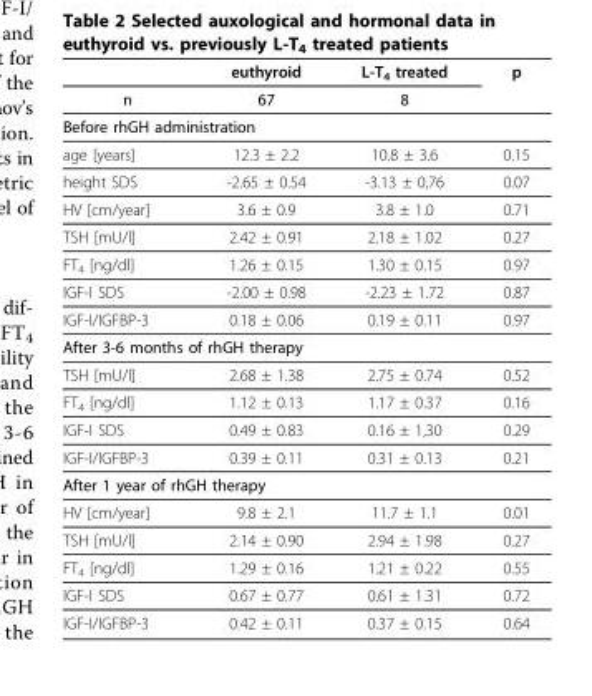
<table><thead><tr><td rowspan="2">n</td><td rowspan="2">euthyroid 67</td><td rowspan="2">L-T4 treated 8</td><td rowspan="2">p</td></tr><tr></tr></thead><tbody><tr><td colspan="4">Before rhGH administration</td></tr><tr><td>age [years]</td><td>12.3 ± 2.2</td><td>10.8 ± 3.6</td><td>0.15</td></tr><tr><td>height SDS</td><td>-2.65 ± 0.54</td><td>-3.13 ± 0,76</td><td>0.07</td></tr><tr><td>HV [cm/year]</td><td>3.6 ± 0.9</td><td>3.8 ± 1.0</td><td>0.71</td></tr><tr><td>TSH [mU/l]</td><td>2.42 ± 0.91</td><td>2.18 ± 1.02</td><td>0.27</td></tr><tr><td>FT<sub>4</sub> [ng/dl]</td><td>1.26 ± 0.15</td><td>1.30 ± 0.15</td><td>0.97</td></tr><tr><td>IGF-I SDS</td><td>-2.00 ± 0.98</td><td>-2.23 ± 1.72</td><td>0.87</td></tr><tr><td>IGF-I/IGFBP-3</td><td>0.18 ± 0.06</td><td>0.19 ± 0.11</td><td>0.97</td></tr><tr><td colspan="4">After 3-6 months of rhGH therapy</td></tr><tr><td>TSH [mU/l]</td><td>2.68 ± 1.38</td><td>2.75 ± 0.74</td><td>0.52</td></tr><tr><td>FT<sub>4</sub> [ng/dl]</td><td>1.12 ± 0.13</td><td>1.17 ± 0.37</td><td>0.16</td></tr><tr><td>IGF-I SDS</td><td>0.49 ± 0.83</td><td>0.16 ± 1,30</td><td>0.29</td></tr><tr><td>IGF-I/IGFBP-3</td><td>0.39 ± 0.11</td><td>0.31 ± 0.13</td><td>0.21</td></tr><tr><td colspan="4">After 1 year of rhGH therapy</td></tr><tr><td>HV [cm/year]</td><td>9.8 ± 2.1</td><td>11.7 ± 1.1</td><td>0.01</td></tr><tr><td>TSH [mU/l]</td><td>2.14 ± 0.90</td><td>2.94 ± 1.98</td><td>0.27</td></tr><tr><td>FT<sub>4</sub> [ng/dl]</td><td>1.29 ± 0.16</td><td>1.21 ± 0.22</td><td>0.55</td></tr><tr><td>IGF-I SDS</td><td>0.67 ± 0.77</td><td>0.61 ± 1.31</td><td>0.72</td></tr><tr><td>IGF-I/IGFBP-3</td><td>0.42 ± 0.11</td><td>0.37 ± 0.15</td><td>0.64</td></tr></tbody></table>